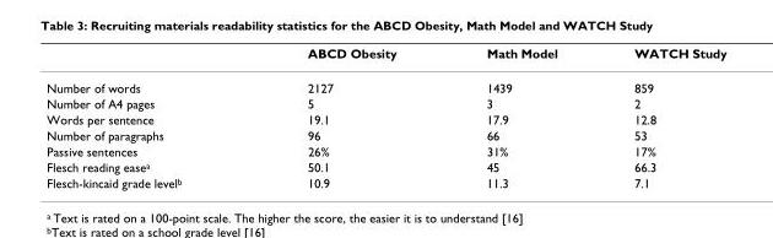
<table><thead><tr><td></td><td>ABCD Obesity</td><td>Math Model</td><td>WATCH Study</td></tr></thead><tbody><tr><td>Number of words</td><td>2127</td><td>1439</td><td>859</td></tr><tr><td>Number of A4 pages</td><td>5</td><td>3</td><td>2</td></tr><tr><td>Words per sentence</td><td>19.1</td><td>17.9</td><td>12.8</td></tr><tr><td>Number of paragraphs</td><td>96</td><td>66</td><td>53</td></tr><tr><td>Passive sentences</td><td>26%</td><td>31%</td><td>17%</td></tr><tr><td>Flesch reading ease<sup>a</sup></td><td>50.1</td><td>45</td><td>66.3</td></tr><tr><td>Flesch-kincaid grade level<sup>b</sup></td><td>10.9</td><td>11.3</td><td>7.1</td></tr></tbody></table>